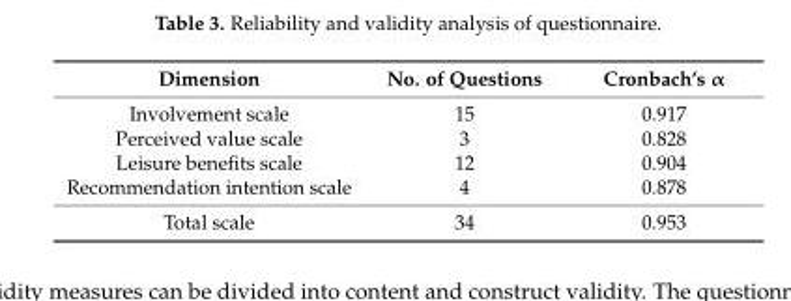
<table><thead><tr><td>Dimension</td><td>No. of Questions</td><td>Cronbach’s α</td></tr></thead><tbody><tr><td>Involvement scale</td><td>15</td><td>0.917</td></tr><tr><td>Perceived value scale</td><td>3</td><td>0.828</td></tr><tr><td>Leisure benefits scale</td><td>12</td><td>0.904</td></tr><tr><td>Recommendation intention scale</td><td>4</td><td>0.878</td></tr><tr><td>Total scale</td><td>34</td><td>0.953</td></tr></tbody></table>